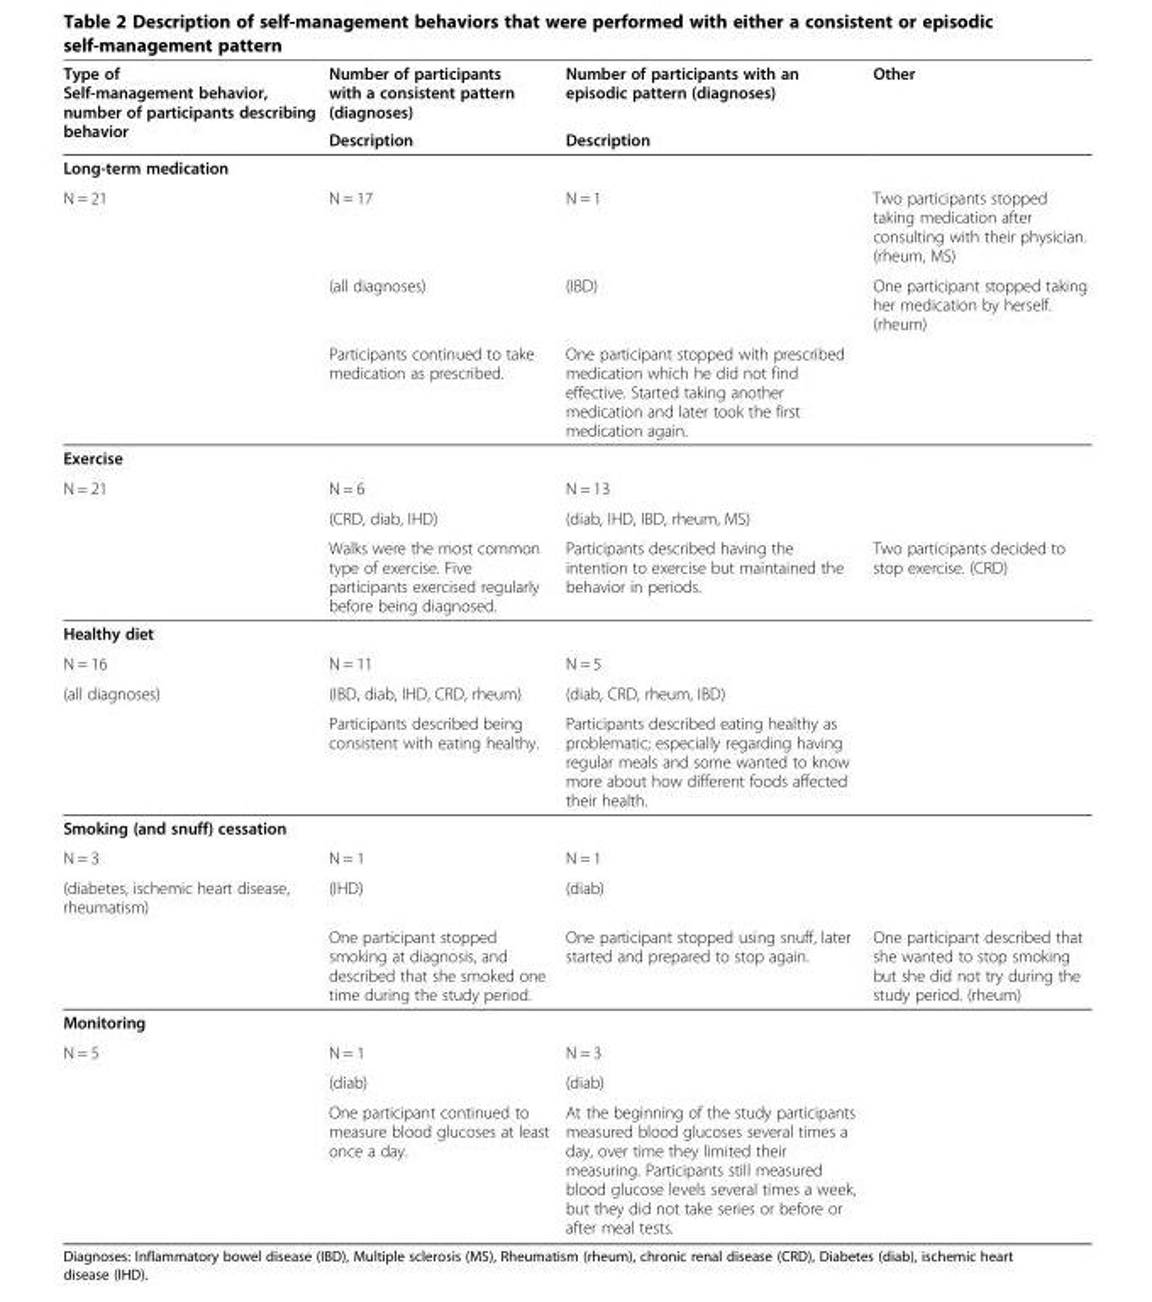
<table><thead><tr><td rowspan="2">Type of Self-management behavior, number of participants describing behavior</td><td rowspan="2">Number of participants with a consistent pattern (diagnoses) Description</td><td rowspan="2">Number of participants with an episodic pattern (diagnoses) Description</td><td rowspan="2">Other</td></tr><tr></tr></thead><tbody><tr><td colspan="4">Long-term medication</td></tr><tr><td rowspan="3">N = 21</td><td>N = 17</td><td>N = 1</td><td>Two participants stopped taking medication after consulting with their physician. (rheum, MS)</td></tr><tr><td>(all diagnoses)</td><td>(IBD)</td><td>One participant stopped taking her medication by herself. (rheum)</td></tr><tr><td>Participants continued to take medication as prescribed.</td><td>One participant stopped with prescribed medication which he did not find effective. Started taking another medication and later took the first medication again.</td><td></td></tr><tr><td colspan="4">Exercise</td></tr><tr><td rowspan="3">N = 21</td><td>N = 6</td><td>N = 13</td><td></td></tr><tr><td>(CRD, diab, IHD)</td><td>(diab, IHD, IBD, rheum, MS)</td><td></td></tr><tr><td>Walks were the most common type of exercise. Five participants exercised regularly before being diagnosed.</td><td>Participants described having the intention to exercise but maintained the behavior in periods.</td><td>Two participants decided to stop exercise. (CRD)</td></tr><tr><td colspan="4">Healthy diet</td></tr><tr><td>N = 16</td><td>N = 11</td><td>N = 5</td><td></td></tr><tr><td rowspan="2">(all diagnoses)</td><td>(IBD, diab, IHD, CRD, rheum)</td><td>(diab, CRD, rheum, IBD)</td><td></td></tr><tr><td>Participants described being consistent with eating healthy.</td><td>Participants described eating healthy as problematic; especially regarding having regular meals and some wanted to know more about how different foods affected their health.</td><td></td></tr><tr><td colspan="4">Smoking (and snuff) cessation</td></tr><tr><td>N = 3</td><td>N = 1</td><td>N = 1</td><td></td></tr><tr><td rowspan="2">(diabetes, ischemic heart disease, rheumatism)</td><td>(IHD)</td><td>(diab)</td><td></td></tr><tr><td>One participant stopped smoking at diagnosis, and described that she smoked one time during the study period.</td><td>One participant stopped using snuff, later started and prepared to stop again.</td><td>One participant described that she wanted to stop smoking but she did not try during the study period. (rheum)</td></tr><tr><td colspan="4">Monitoring</td></tr><tr><td rowspan="3">N = 5</td><td>N = 1</td><td>N = 3</td><td></td></tr><tr><td>(diab)</td><td>(diab)</td><td></td></tr><tr><td>One participant continued to measure blood glucoses at least once a day.</td><td>At the beginning of the study participants measured blood glucoses several times a day, over time they limited their measuring. Participants still measured blood glucose levels several times a week, but they did not take series or before or after meal tests.</td><td></td></tr></tbody></table>